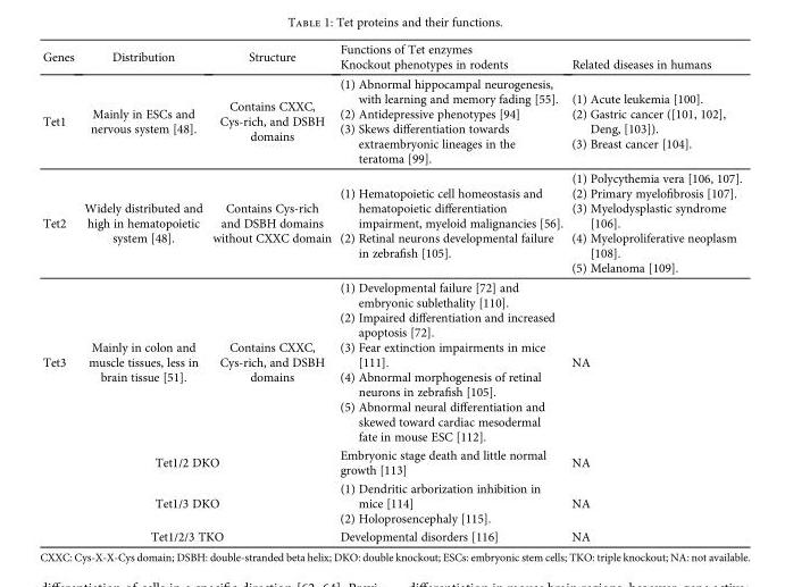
<table><thead><tr><td rowspan="2">Genes</td><td rowspan="2">Distribution</td><td rowspan="2">Structure</td><td colspan="2">Functions of Tet enzymes</td></tr><tr><td>Knockout phenotypes in rodents</td><td>Related diseases in humans</td></tr></thead><tbody><tr><td>Tet1</td><td>Mainly in ESCs and nervous system [48].</td><td>Contains CXXC, Cys-rich, and DSBH domains</td><td>(1) Abnormal hippocampal neurogenesis, with learning and memory fading [55]. (2) Antidepressive phenotypes [94] (3) Skews differentiation towards extraembryonic lineages in the teratoma [99].</td><td>(1) Acute leukemia [100]. (2) Gastric cancer ([101, 102], Deng, [103]). (3) Breast cancer [104].</td></tr><tr><td>Tet2</td><td>Widely distributed and high in hematopoietic system [48].</td><td>Contains Cys-rich and DSBH domains without CXXC domain</td><td>(1) Hematopoietic cell homeostasis and hematopoietic differentiation impairment, myeloid malignancies [56]. (2) Retinal neurons developmental failure in zebrafish [105].</td><td>(1) Polycythemia vera [106, 107]. (2) Primary myelofibrosis [107]. (3) Myelodysplastic syndrome [106]. (4) Myeloproliferative neoplasm [108]. (5) Melanoma [109].</td></tr><tr><td>Tet3</td><td>Mainly in colon and muscle tissues, less in brain tissue [51].</td><td>Contains CXXC, Cys-rich, and DSBH domains</td><td>(1) Developmental failure [72] and embryonic sublethality [110]. (2) Impaired differentiation and increased apoptosis [72]. (3) Fear extinction impairments in mice [111]. (4) Abnormal morphogenesis of retinal neurons in zebrafish [105]. (5) Abnormal neural differentiation and skewed toward cardiac mesodermal fate in mouse ESC [112].</td><td>NA</td></tr><tr><td colspan="3">Tet1/2 DKO</td><td>Embryonic stage death and little normal growth [113]</td><td>NA</td></tr><tr><td colspan="3">Tet1/3 DKO</td><td>(1) Dendritic arborization inhibition in mice [114] (2) Holoprosencephaly [115].</td><td>NA</td></tr><tr><td colspan="3">Tet1/2/3 TKO</td><td>Developmental disorders [116]</td><td>NA</td></tr></tbody></table>